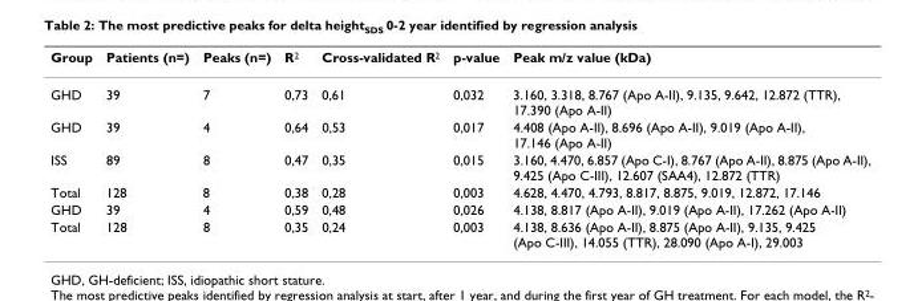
<table><thead><tr><td>Group</td><td>Patients (n=)</td><td>Peaks (n=)</td><td>R<sup>2</sup></td><td>Cross-validated R<sup>2</sup></td><td>p-value</td><td>Peak m/z value (kDa)</td></tr></thead><tbody><tr><td>GHD</td><td>39</td><td>7</td><td>0,73</td><td>0,61</td><td>0,032</td><td>3.160, 3.318, 8.767 (Apo A-II), 9.135, 9.642, 12.872 (TTR), 17.390 (Apo A-II)</td></tr><tr><td>GHD</td><td>39</td><td>4</td><td>0,64</td><td>0,53</td><td>0,017</td><td>4.408 (Apo A-II), 8.696 (Apo A-II), 9.019 (Apo A-II), 17.146 (Apo A-II)</td></tr><tr><td>ISS</td><td>89</td><td>8</td><td>0,47</td><td>0,35</td><td>0,015</td><td>3.160, 4.470, 6.857 (Apo C-I), 8.767 (Apo A-II), 8.875 (Apo A-II), 9.425 (Apo C-III), 12.607 (SAA4), 12.872 (TTR)</td></tr><tr><td>Total</td><td>128</td><td>8</td><td>0,38</td><td>0,28</td><td>0,003</td><td>4.628, 4.470, 4.793, 8.817, 8.875, 9.019, 12.872, 17.146</td></tr><tr><td>GHD</td><td>39</td><td>4</td><td>0,59</td><td>0,48</td><td>0,026</td><td>4.138, 8.817 (Apo A-II), 9.019 (Apo A-II), 17.262 (Apo A-II)</td></tr><tr><td>Total</td><td>128</td><td>8</td><td>0,35</td><td>0,24</td><td>0,003</td><td>4.138, 8.636 (Apo A-II), 8.875 (Apo A-II), 9.135, 9.425 (Apo C-III), 14.055 (TTR), 28.090 (Apo A-I), 29.003</td></tr></tbody></table>